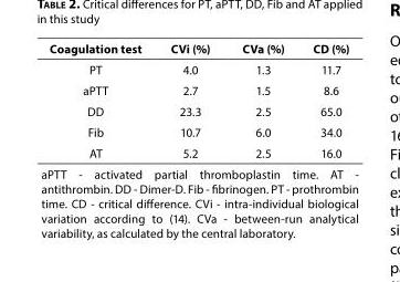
<table><thead><tr><td>Coagulation test</td><td>CVi (%)</td><td>CVa (%)</td><td>CD (%)</td></tr></thead><tbody><tr><td>PT</td><td>4.0</td><td>1.3</td><td>11.7</td></tr><tr><td>aPTT</td><td>2.7</td><td>1.5</td><td>8.6</td></tr><tr><td>DD</td><td>23.3</td><td>2.5</td><td>65.0</td></tr><tr><td>Fib</td><td>10.7</td><td>6.0</td><td>34.0</td></tr><tr><td>AT</td><td>5.2</td><td>2.5</td><td>16.0</td></tr><tr><td colspan="4">aPTT - activated partial thromboplastin time. AT - antithrombin. DD - Dimer-D. Fib - fibrinogen. PT - prothrombin time. CD - critical difference. CVi - intra-individual biological variation according to (14). CVa - between-run analytical variability, as calculated by the central laboratory.</td></tr></tbody></table>